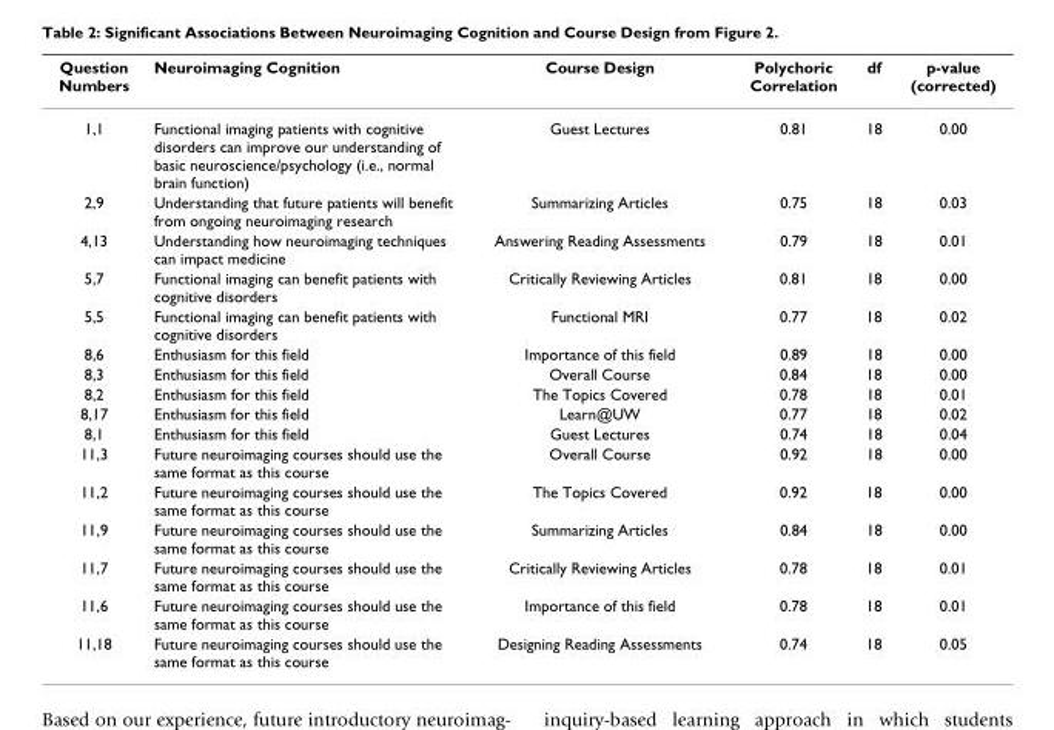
<table><thead><tr><td>Question Numbers</td><td>Neuroimaging Cognition</td><td>Course Design</td><td>Polychoric Correlation</td><td>df</td><td>p-value (corrected)</td></tr></thead><tbody><tr><td>1,1</td><td>Functional imaging patients with cognitive disorders can improve our understanding of basic neuroscience/psychology (i.e., normal brain function)</td><td>Guest Lectures</td><td>0.81</td><td>18</td><td>0.00</td></tr><tr><td>2,9</td><td>Understanding that future patients will benefit from ongoing neuroimaging research</td><td>Summarizing Articles</td><td>0.75</td><td>18</td><td>0.03</td></tr><tr><td>4,13</td><td>Understanding how neuroimaging techniques can impact medicine</td><td>Answering Reading Assessments</td><td>0.79</td><td>18</td><td>0.01</td></tr><tr><td>5,7</td><td>Functional imaging can benefit patients with cognitive disorders</td><td>Critically Reviewing Articles</td><td>0.81</td><td>18</td><td>0.00</td></tr><tr><td>5,5</td><td>Functional imaging can benefit patients with cognitive disorders</td><td>Functional MRI</td><td>0.77</td><td>18</td><td>0.02</td></tr><tr><td>8,6</td><td>Enthusiasm for this field</td><td>Importance of this field</td><td>0.89</td><td>18</td><td>0.00</td></tr><tr><td>8,3</td><td>Enthusiasm for this field</td><td>Overall Course</td><td>0.84</td><td>18</td><td>0.00</td></tr><tr><td>8,2</td><td>Enthusiasm for this field</td><td>The Topics Covered</td><td>0.78</td><td>18</td><td>0.01</td></tr><tr><td>8,17</td><td>Enthusiasm for this field</td><td>Learn@UW</td><td>0.77</td><td>18</td><td>0.02</td></tr><tr><td>8,1</td><td>Enthusiasm for this field</td><td>Guest Lectures</td><td>0.74</td><td>18</td><td>0.04</td></tr><tr><td>11,3</td><td>Future neuroimaging courses should use the same format as this course</td><td>Overall Course</td><td>0.92</td><td>18</td><td>0.00</td></tr><tr><td>11,2</td><td>Future neuroimaging courses should use the same format as this course</td><td>The Topics Covered</td><td>0.92</td><td>18</td><td>0.00</td></tr><tr><td>11,9</td><td>Future neuroimaging courses should use the same format as this course</td><td>Summarizing Articles</td><td>0.84</td><td>18</td><td>0.00</td></tr><tr><td>11,7</td><td>Future neuroimaging courses should use the same format as this course</td><td>Critically Reviewing Articles</td><td>0.78</td><td>18</td><td>0.01</td></tr><tr><td>11,6</td><td>Future neuroimaging courses should use the same format as this course</td><td>Importance of this field</td><td>0.78</td><td>18</td><td>0.01</td></tr><tr><td>11,18</td><td>Future neuroimaging courses should use the same format as this course</td><td>Designing Reading Assessments</td><td>0.74</td><td>18</td><td>0.05</td></tr></tbody></table>